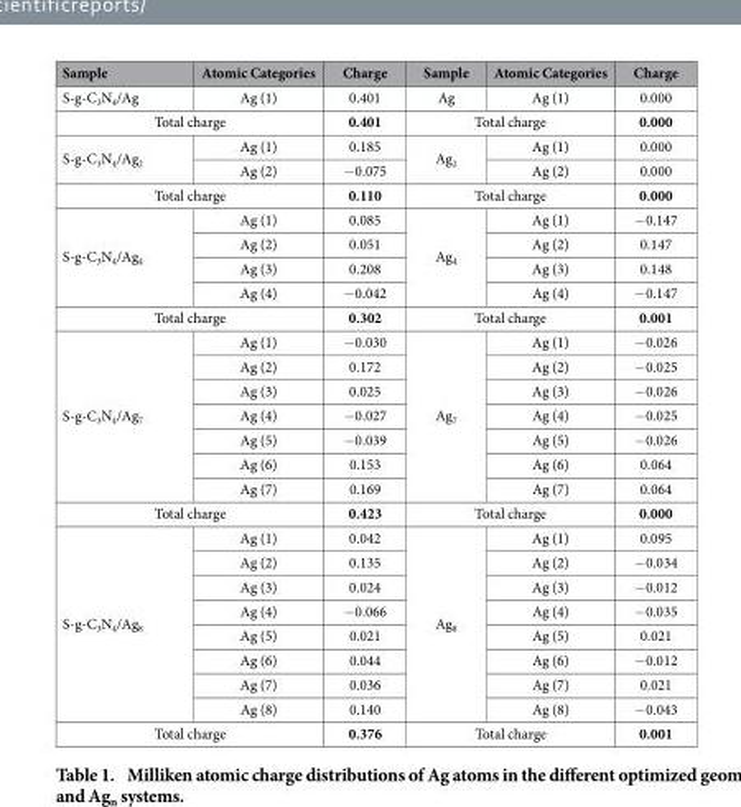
<table><thead><tr><td>Sample</td><td>Atomic Categories</td><td>Charge</td><td>Sample</td><td>Atomic Categories</td><td>Charge</td></tr></thead><tbody><tr><td>S-g-C<sub>3</sub>N<sub>4</sub>/Ag</td><td>Ag (1)</td><td>0.401</td><td>Ag</td><td>Ag (1)</td><td>0.000</td></tr><tr><td colspan="2">Total charge</td><td>0.401</td><td colspan="2">Total charge</td><td>0.000</td></tr><tr><td rowspan="2">S-g-C<sub>3</sub>N<sub>4</sub>/Ag<sub>2</sub></td><td>Ag (1)</td><td>0.185</td><td rowspan="2">Ag<sub>2</sub></td><td>Ag (1)</td><td>0.000</td></tr><tr><td>Ag (2)</td><td>− 0.075</td><td>Ag (2)</td><td>0.000</td></tr><tr><td colspan="2">Total charge</td><td>0.110</td><td colspan="2">Total charge</td><td>0.000</td></tr><tr><td rowspan="4">S-g-C<sub>3</sub>N<sub>4</sub>/Ag<sub>4</sub></td><td>Ag (1)</td><td>0.085</td><td rowspan="4">Ag<sub>4</sub></td><td>Ag (1)</td><td>− 0.147</td></tr><tr><td>Ag (2)</td><td>0.051</td><td>Ag (2)</td><td>0.147</td></tr><tr><td>Ag (3)</td><td>0.208</td><td>Ag (3)</td><td>0.148</td></tr><tr><td>Ag (4)</td><td>− 0.042</td><td>Ag (4)</td><td>− 0.147</td></tr><tr><td colspan="2">Total charge</td><td>0.302</td><td colspan="2">Total charge</td><td>0.001</td></tr><tr><td rowspan="7">S-g-C<sub>3</sub>N<sub>4</sub>/Ag<sub>7</sub></td><td>Ag (1)</td><td>− 0.030</td><td rowspan="7">Ag<sub>7</sub></td><td>Ag (1)</td><td>− 0.026</td></tr><tr><td>Ag (2)</td><td>0.172</td><td>Ag (2)</td><td>− 0.025</td></tr><tr><td>Ag (3)</td><td>0.025</td><td>Ag (3)</td><td>− 0.026</td></tr><tr><td>Ag (4)</td><td>− 0.027</td><td>Ag (4)</td><td>− 0.025</td></tr><tr><td>Ag (5)</td><td>− 0.039</td><td>Ag (5)</td><td>− 0.026</td></tr><tr><td>Ag (6)</td><td>0.153</td><td>Ag (6)</td><td>0.064</td></tr><tr><td>Ag (7)</td><td>0.169</td><td>Ag (7)</td><td>0.064</td></tr><tr><td colspan="2">Total charge</td><td>0.423</td><td colspan="2">Total charge</td><td>0.000</td></tr><tr><td rowspan="8">S-g-C<sub>3</sub>N<sub>4</sub>/Ag<sub>8</sub></td><td>Ag (1)</td><td>0.042</td><td rowspan="8">Ag<sub>8</sub></td><td>Ag (1)</td><td>0.095</td></tr><tr><td>Ag (2)</td><td>0.135</td><td>Ag (2)</td><td>− 0.034</td></tr><tr><td>Ag (3)</td><td>0.024</td><td>Ag (3)</td><td>− 0.012</td></tr><tr><td>Ag (4)</td><td>− 0.066</td><td>Ag (4)</td><td>− 0.035</td></tr><tr><td>Ag (5)</td><td>0.021</td><td>Ag (5)</td><td>0.021</td></tr><tr><td>Ag (6)</td><td>0.044</td><td>Ag (6)</td><td>− 0.012</td></tr><tr><td>Ag (7)</td><td>0.036</td><td>Ag (7)</td><td>0.021</td></tr><tr><td>Ag (8)</td><td>0.140</td><td>Ag (8)</td><td>− 0.043</td></tr><tr><td colspan="2">Total charge</td><td>0.376</td><td colspan="2">Total charge</td><td>0.001</td></tr></tbody></table>